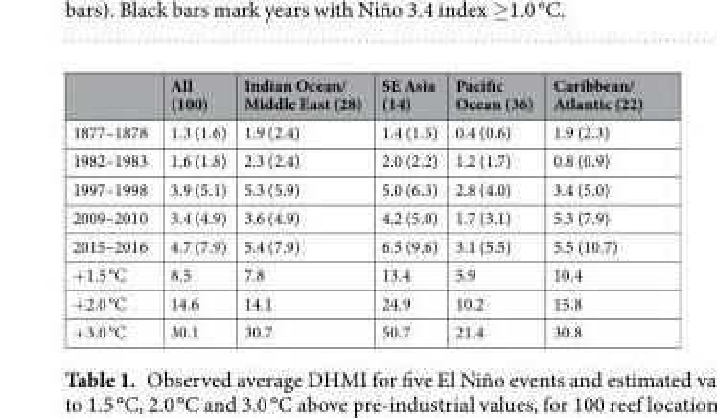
<table><thead><tr><td></td><td>All (100)</td><td>Indian Ocean/ Middle East (28)</td><td>SE Asia (14)</td><td>Pacific Ocean (36)</td><td>Caribbean/ Atlantic (22)</td></tr></thead><tbody><tr><td>1877–1878</td><td>1.3 (1.6)</td><td>1.9 (2.4)</td><td>1.4 (1.5)</td><td>0.4 (0.6)</td><td>1.9 (2.3)</td></tr><tr><td>1982–1983</td><td>1.6 (1.8)</td><td>2.3 (2.4)</td><td>2.0 (2.2)</td><td>1.2 (1.7)</td><td>0.8 (0.9)</td></tr><tr><td>1997–1998</td><td>3.9 (5.1)</td><td>5.3 (5.9)</td><td>5.0 (6.3)</td><td>2.8 (4.0)</td><td>3.4 (5.0)</td></tr><tr><td>2009–2010</td><td>3.4 (4.9)</td><td>3.6 (4.9)</td><td>4.2 (5.0)</td><td>1.7 (3.1)</td><td>5.3 (7.9)</td></tr><tr><td>2015–2016</td><td>4.7 (7.9)</td><td>5.4 (7.9)</td><td>6.5 (9.6)</td><td>3.1 (5.5)</td><td>5.5 (10.7)</td></tr><tr><td>+1.5 °C</td><td>8.5</td><td>7.8</td><td>13.4</td><td>5.9</td><td>10.4</td></tr><tr><td>+2.0 °C</td><td>14.6</td><td>14.1</td><td>24.9</td><td>10.2</td><td>15.8</td></tr><tr><td>+3.0 °C</td><td>30.1</td><td>30.7</td><td>50.7</td><td>21.4</td><td>30.8</td></tr></tbody></table>